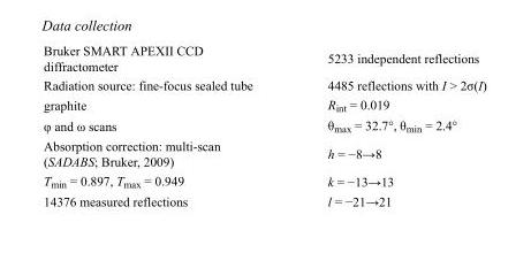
<table><tbody><tr><td>Bruker SMART APEXII CCD diffractometer</td><td>5233 independent reflections</td></tr><tr><td>Radiation source: fine-focus sealed tube</td><td>4485 reflections with I &gt; 2σ(I)</td></tr><tr><td>graphite</td><td>R<sub>int</sub> = 0.019</td></tr><tr><td>φ and ω scans</td><td>θ<sub>max</sub> = 32.7°, θ<sub>min</sub> = 2.4°</td></tr><tr><td>Absorption correction: multi-scan (SADABS; Bruker, 2009)</td><td>h = −8→8</td></tr><tr><td>T<sub>min</sub> = 0.897, T<sub>max</sub> = 0.949</td><td>k = −13→13</td></tr><tr><td>14376 measured reflections</td><td>l = −21→21</td></tr></tbody></table>